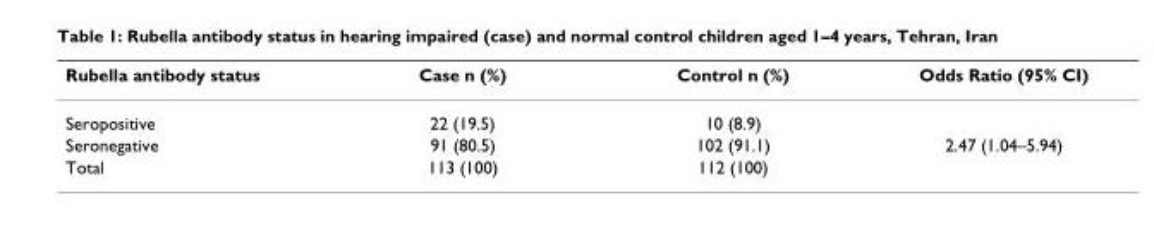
<table><thead><tr><td>Rubella antibody status</td><td>Case n (%)</td><td>Control n (%)</td><td>Odds Ratio (95% CI)</td></tr></thead><tbody><tr><td>Seropositive</td><td>22 (19.5)</td><td>10 (8.9)</td><td></td></tr><tr><td>Seronegative</td><td>91 (80.5)</td><td>102 (91.1)</td><td>2.47 (1.04–5.94)</td></tr><tr><td>Total</td><td>113 (100)</td><td>112 (100)</td><td></td></tr></tbody></table>